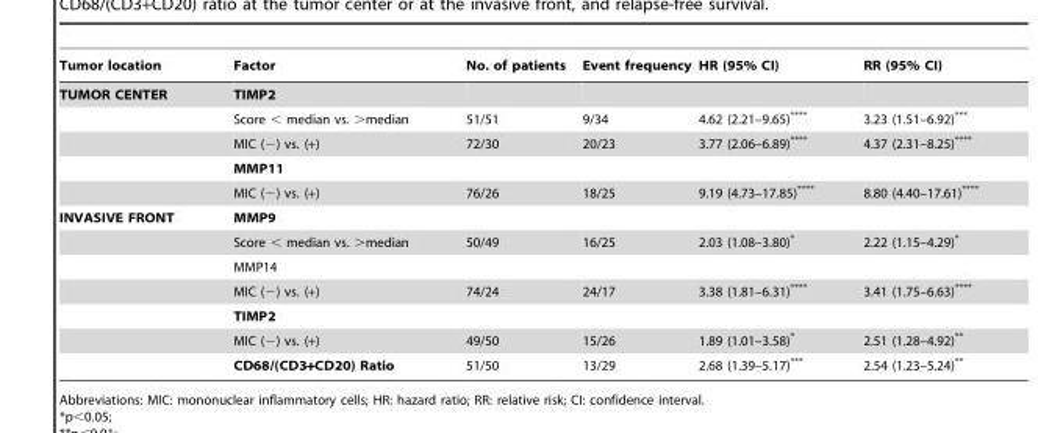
<table><thead><tr><td>Tumor location</td><td>Factor</td><td>No. of patients</td><td>Event frequency</td><td>HR (95% CI)</td><td>RR (95% CI)</td></tr></thead><tbody><tr><td rowspan="5">TUMOR CENTER</td><td>TIMP2</td><td></td><td></td><td></td><td></td></tr><tr><td>Score &lt; median vs. &gt;median</td><td>51/51</td><td>9/34</td><td>4.62 (2.21–9.65)****</td><td>3.23 (1.51–6.92)***</td></tr><tr><td>MIC (−) vs. (+)</td><td>72/30</td><td>20/23</td><td>3.77 (2.06–6.89)****</td><td>4.37 (2.31–8.25)****</td></tr><tr><td>MMP11</td><td></td><td></td><td></td><td></td></tr><tr><td>MIC (−) vs. (+)</td><td>76/26</td><td>18/25</td><td>9.19 (4.73–17.85)****</td><td>8.80 (4.40–17.61)****</td></tr><tr><td rowspan="7">INVASIVE FRONT</td><td>MMP9</td><td></td><td></td><td></td><td></td></tr><tr><td>Score &lt; median vs. &gt;median</td><td>50/49</td><td>16/25</td><td>2.03 (1.08–3.80)*</td><td>2.22 (1.15–4.29)*</td></tr><tr><td>MMP14</td><td></td><td></td><td></td><td></td></tr><tr><td>MIC (−) vs. (+)</td><td>74/24</td><td>24/17</td><td>3.38 (1.81–6.31)****</td><td>3.41 (1.75–6.63)****</td></tr><tr><td>TIMP2</td><td></td><td></td><td></td><td></td></tr><tr><td>MIC (−) vs. (+)</td><td>49/50</td><td>15/26</td><td>1.89 (1.01–3.58)*</td><td>2.51 (1.28–4.92)**</td></tr><tr><td>CD68/(CD3+CD20) Ratio</td><td>51/50</td><td>13/29</td><td>2.68 (1.39–5.17)***</td><td>2.54 (1.23–5.24)**</td></tr></tbody></table>